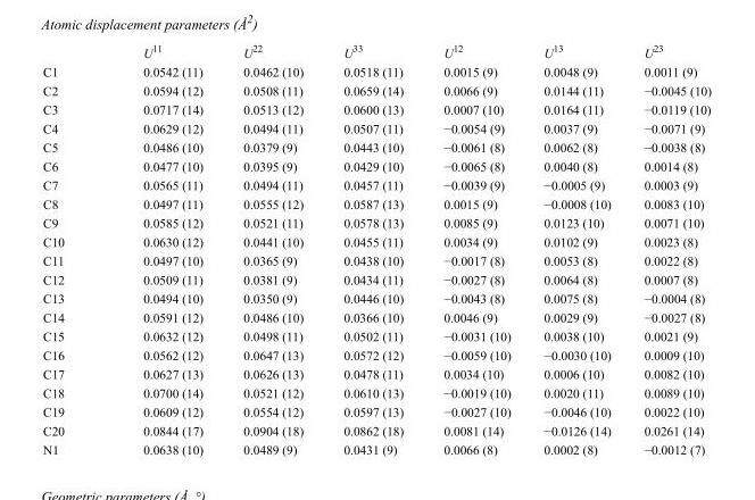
<table><thead><tr><td></td><td>U<sup>11</sup></td><td>U<sup>22</sup></td><td>U<sup>33</sup></td><td>U<sup>12</sup></td><td>U<sup>13</sup></td><td>U<sup>23</sup></td></tr></thead><tbody><tr><td>C1</td><td>0.0542 (11)</td><td>0.0462 (10)</td><td>0.0518 (11)</td><td>0.0015 (9)</td><td>0.0048 (9)</td><td>0.0011 (9)</td></tr><tr><td>C2</td><td>0.0594 (12)</td><td>0.0508 (11)</td><td>0.0659 (14)</td><td>0.0066 (9)</td><td>0.0144 (11)</td><td>−0.0045 (10)</td></tr><tr><td>C3</td><td>0.0717 (14)</td><td>0.0513 (12)</td><td>0.0600 (13)</td><td>0.0007 (10)</td><td>0.0164 (11)</td><td>−0.0119 (10)</td></tr><tr><td>C4</td><td>0.0629 (12)</td><td>0.0494 (11)</td><td>0.0507 (11)</td><td>−0.0054 (9)</td><td>0.0037 (9)</td><td>−0.0071 (9)</td></tr><tr><td>C5</td><td>0.0486 (10)</td><td>0.0379 (9)</td><td>0.0443 (10)</td><td>−0.0061 (8)</td><td>0.0062 (8)</td><td>−0.0038 (8)</td></tr><tr><td>C6</td><td>0.0477 (10)</td><td>0.0395 (9)</td><td>0.0429 (10)</td><td>−0.0065 (8)</td><td>0.0040 (8)</td><td>0.0014 (8)</td></tr><tr><td>C7</td><td>0.0565 (11)</td><td>0.0494 (11)</td><td>0.0457 (11)</td><td>−0.0039 (9)</td><td>−0.0005 (9)</td><td>0.0003 (9)</td></tr><tr><td>C8</td><td>0.0497 (11)</td><td>0.0555 (12)</td><td>0.0587 (13)</td><td>0.0015 (9)</td><td>−0.0008 (10)</td><td>0.0083 (10)</td></tr><tr><td>C9</td><td>0.0585 (12)</td><td>0.0521 (11)</td><td>0.0578 (13)</td><td>0.0085 (9)</td><td>0.0123 (10)</td><td>0.0071 (10)</td></tr><tr><td>C10</td><td>0.0630 (12)</td><td>0.0441 (10)</td><td>0.0455 (11)</td><td>0.0034 (9)</td><td>0.0102 (9)</td><td>0.0023 (8)</td></tr><tr><td>C11</td><td>0.0497 (10)</td><td>0.0365 (9)</td><td>0.0438 (10)</td><td>−0.0017 (8)</td><td>0.0053 (8)</td><td>0.0022 (8)</td></tr><tr><td>C12</td><td>0.0509 (11)</td><td>0.0381 (9)</td><td>0.0434 (11)</td><td>−0.0027 (8)</td><td>0.0064 (8)</td><td>0.0007 (8)</td></tr><tr><td>C13</td><td>0.0494 (10)</td><td>0.0350 (9)</td><td>0.0446 (10)</td><td>−0.0043 (8)</td><td>0.0075 (8)</td><td>−0.0004 (8)</td></tr><tr><td>C14</td><td>0.0591 (12)</td><td>0.0486 (10)</td><td>0.0366 (10)</td><td>0.0046 (9)</td><td>0.0029 (9)</td><td>−0.0027 (8)</td></tr><tr><td>C15</td><td>0.0632 (12)</td><td>0.0498 (11)</td><td>0.0502 (11)</td><td>−0.0031 (10)</td><td>0.0038 (10)</td><td>0.0021 (9)</td></tr><tr><td>C16</td><td>0.0562 (12)</td><td>0.0647 (13)</td><td>0.0572 (12)</td><td>−0.0059 (10)</td><td>−0.0030 (10)</td><td>0.0009 (10)</td></tr><tr><td>C17</td><td>0.0627 (13)</td><td>0.0626 (13)</td><td>0.0478 (11)</td><td>0.0034 (10)</td><td>0.0006 (10)</td><td>0.0082 (10)</td></tr><tr><td>C18</td><td>0.0700 (14)</td><td>0.0521 (12)</td><td>0.0610 (13)</td><td>−0.0019 (10)</td><td>0.0020 (11)</td><td>0.0089 (10)</td></tr><tr><td>C19</td><td>0.0609 (12)</td><td>0.0554 (12)</td><td>0.0597 (13)</td><td>−0.0027 (10)</td><td>−0.0046 (10)</td><td>0.0022 (10)</td></tr><tr><td>C20</td><td>0.0844 (17)</td><td>0.0904 (18)</td><td>0.0862 (18)</td><td>0.0081 (14)</td><td>−0.0126 (14)</td><td>0.0261 (14)</td></tr><tr><td>N1</td><td>0.0638 (10)</td><td>0.0489 (9)</td><td>0.0431 (9)</td><td>0.0066 (8)</td><td>0.0002 (8)</td><td>−0.0012 (7)</td></tr></tbody></table>